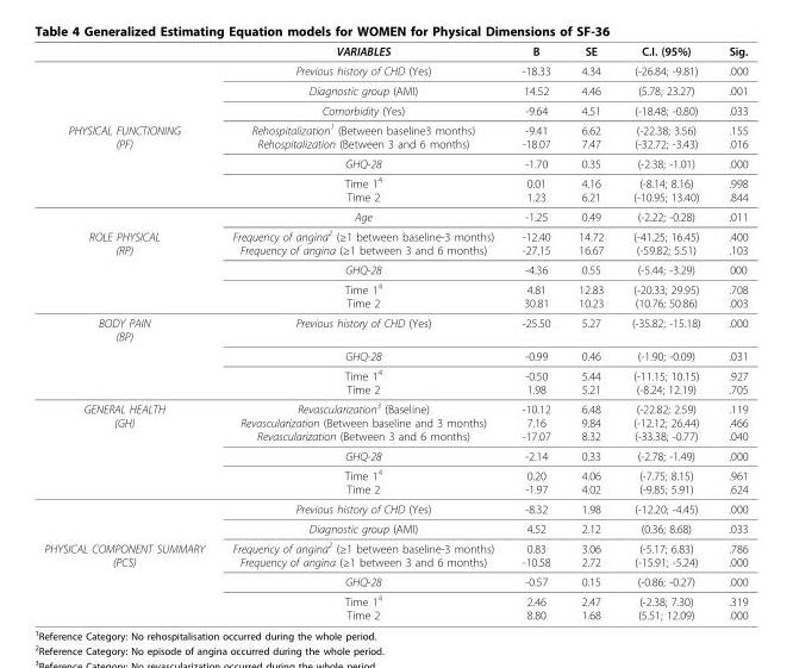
<table><thead><tr><td></td><td>VARIABLES</td><td>B</td><td>SE</td><td>C.I. (95%)</td><td>Sig.</td></tr></thead><tbody><tr><td></td><td>Previous history of CHD (Yes)</td><td>-18.33</td><td>4.34</td><td>(-26.84; -9.81)</td><td>.000</td></tr><tr><td></td><td>Diagnostic group (AMI)</td><td>14.52</td><td>4.46</td><td>(5.78; 23.27)</td><td>.001</td></tr><tr><td></td><td>Comorbidity (Yes)</td><td>-9.64</td><td>4.51</td><td>(-18.48; -0.80)</td><td>.033</td></tr><tr><td rowspan="4">PHYSICAL FUNCTIONING (PF)</td><td>Rehospitalization<sup>1</sup> (Between baseline3 months) Rehospitalization (Between 3 and 6 months)</td><td>-9.41 -18.07</td><td>6.62 7.47</td><td>(-22.38; 3.56) (-32.72; -3.43)</td><td>.155 .016</td></tr><tr><td>GHQ-28</td><td>-1.70</td><td>0.35</td><td>(-2.38; -1.01)</td><td>.000</td></tr><tr><td>Time 1<sup>4</sup> Time 2</td><td>0.01 1.23</td><td>4.16 6.21</td><td>(-8.14; 8.16) (-10.95; 13.40)</td><td>.998 .844</td></tr><tr><td>Age</td><td>-1.25</td><td>0.49</td><td>(-2.22; -0.28)</td><td>.011</td></tr><tr><td rowspan="3">ROLE PHYSICAL (RP)</td><td>Frequency of angina<sup>2</sup> (≥1 between baseline-3 months) Frequency of angina (≥1 between 3 and 6 months)</td><td>-12.40 -27.15</td><td>14.72 16.67</td><td>(-41.25; 16.45) (-59.82; 5.51)</td><td>.400 .103</td></tr><tr><td>GHQ-28</td><td>-4.36</td><td>0.55</td><td>(-5.44; -3.29)</td><td>000</td></tr><tr><td>Time 1<sup>4</sup> Time 2</td><td>4.81 30.81</td><td>12.83 10.23</td><td>(-20.33; 29.95) (10.76; 50.86)</td><td>.708 .003</td></tr><tr><td rowspan="3">BODY PAIN (BP)</td><td>Previous history of CHD (Yes)</td><td>-25.50</td><td>5.27</td><td>(-35.82; -15.18)</td><td>.000</td></tr><tr><td>GHQ-28</td><td>-0.99</td><td>0.46</td><td>(-1.90; -0.09)</td><td>.031</td></tr><tr><td>Time 1<sup>4</sup> Time 2</td><td>-0.50 1.98</td><td>5.44 5.21</td><td>(-11.15; 10.15) (-8.24; 12.19)</td><td>.927 .705</td></tr><tr><td rowspan="5">GENERAL HEALTH (GH)</td><td>Revascularization<sup>3</sup> (Baseline) Revascularization (Between baseline and 3 months) Revascularization (Between 3 and 6 months)</td><td>-10.12 7.16 -17.07</td><td>6.48 9.84 8.32</td><td>(-22.82; 2.59) (-12.12; 26.44) (-33.38; -0.77)</td><td>.119 .466 .040</td></tr><tr><td>GHQ-28</td><td>-2.14</td><td>0.33</td><td>(-2.78; -1.49)</td><td>.000</td></tr><tr><td>Time 1<sup>4</sup> Time 2</td><td>0.20 -1.97</td><td>4.06 4.02</td><td>(-7.75; 8.15) (-9.85; 5.91)</td><td>.961 .624</td></tr><tr><td>Previous history of CHD (Yes)</td><td>-8.32</td><td>1.98</td><td>(-12.20; -4.45)</td><td>.000</td></tr><tr><td>Diagnostic group (AMI)</td><td>4.52</td><td>2.12</td><td>(0.36; 8.68)</td><td>.033</td></tr><tr><td rowspan="3">PHYSICAL COMPONENT SUMMARY (PCS)</td><td>Frequency of angina<sup>2</sup> (≥1 between baseline-3 months) Frequency of angina (≥1 between 3 and 6 months)</td><td>0.83 -10.58</td><td>3.06 2.72</td><td>(-5.17; 6.83) (-15.91; -5.24)</td><td>.786 .000</td></tr><tr><td>GHQ-28</td><td>-0.57</td><td>0.15</td><td>(-0.86; -0.27)</td><td>.000</td></tr><tr><td>Time 1<sup>4</sup> Time 2</td><td>2.46 8.80</td><td>2.47 1.68</td><td>(-2.38; 7.30) (5.51; 12.09)</td><td>.319 .000</td></tr></tbody></table>